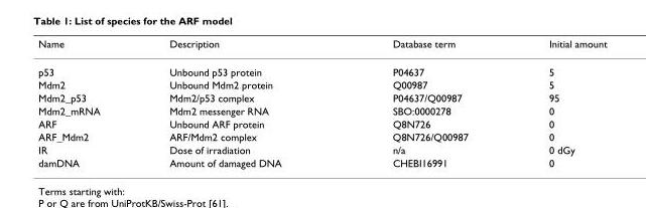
<table><thead><tr><td>Name</td><td>Description</td><td>Database term</td><td>Initial amount</td></tr></thead><tbody><tr><td>p53</td><td>Unbound p53 protein</td><td>P04637</td><td>5</td></tr><tr><td>Mdm2</td><td>Unbound Mdm2 protein</td><td>Q00987</td><td>5</td></tr><tr><td>Mdm2_p53</td><td>Mdm2/p53 complex</td><td>P04637/Q00987</td><td>95</td></tr><tr><td>Mdm2_mRNA</td><td>Mdm2 messenger RNA</td><td>SBO:0000278</td><td>0</td></tr><tr><td>ARF</td><td>Unbound ARF protein</td><td>Q8N726</td><td>0</td></tr><tr><td>ARF_Mdm2</td><td>ARF/Mdm2 complex</td><td>Q8N726/Q00987</td><td>0</td></tr><tr><td>IR</td><td>Dose of irradiation</td><td>n/a</td><td>0 dGy</td></tr><tr><td>damDNA</td><td>Amount of damaged DNA</td><td>CHEBI16991</td><td>0</td></tr></tbody></table>